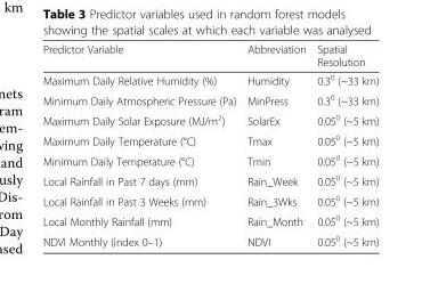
<table><thead><tr><td>Predictor Variable</td><td>Abbreviation</td><td>Spatial Resolution</td></tr></thead><tbody><tr><td>Maximum Daily Relative Humidity (%)</td><td>Humidity</td><td>0.3<sup>0</sup> (~33 km)</td></tr><tr><td>Minimum Daily Atmospheric Pressure (Pa)</td><td>MinPress</td><td>0.3<sup>0</sup> (~33 km)</td></tr><tr><td>Maximum Daily Solar Exposure (MJ/m<sup>2</sup>)</td><td>SolarEx</td><td>0.05<sup>0</sup> (~5 km)</td></tr><tr><td>Maximum Daily Temperature (°C)</td><td>Tmax</td><td>0.05<sup>0</sup> (~5 km)</td></tr><tr><td>Minimum Daily Temperature (°C)</td><td>Tmin</td><td>0.05<sup>0</sup> (~5 km)</td></tr><tr><td>Local Rainfall in Past 7 days (mm)</td><td>Rain_Week</td><td>0.05<sup>0</sup> (~5 km)</td></tr><tr><td>Local Rainfall in Past 3 Weeks (mm)</td><td>Rain_3Wks</td><td>0.05<sup>0</sup> (~5 km)</td></tr><tr><td>Local Monthly Rainfall (mm)</td><td>Rain_Month</td><td>0.05<sup>0</sup> (~5 km)</td></tr><tr><td>NDVI Monthly (index 0–1)</td><td>NDVI</td><td>0.05<sup>0</sup> (~5 km)</td></tr></tbody></table>